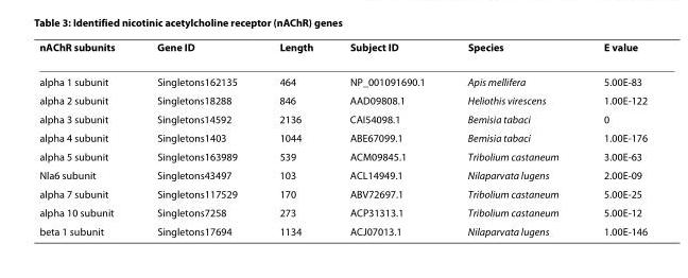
<table><thead><tr><td>nAChR subunits</td><td>Gene ID</td><td>Length</td><td>Subject ID</td><td>Species</td><td>E value</td></tr></thead><tbody><tr><td>alpha 1 subunit</td><td>Singletons162135</td><td>464</td><td>NP_001091690.1</td><td>Apis mellifera</td><td>5.00E-83</td></tr><tr><td>alpha 2 subunit</td><td>Singletons18288</td><td>846</td><td>AAD09808.1</td><td>Heliothis virescens</td><td>1.00E-122</td></tr><tr><td>alpha 3 subunit</td><td>Singletons14592</td><td>2136</td><td>CAI54098.1</td><td>Bemisia tabaci</td><td>0</td></tr><tr><td>alpha 4 subunit</td><td>Singletons1403</td><td>1044</td><td>ABE67099.1</td><td>Bemisia tabaci</td><td>1.00E-176</td></tr><tr><td>alpha 5 subunit</td><td>Singletons163989</td><td>539</td><td>ACM09845.1</td><td>Tribolium castaneum</td><td>3.00E-63</td></tr><tr><td>Nla6 subunit</td><td>Singletons43497</td><td>103</td><td>ACL14949.1</td><td>Nilaparvata lugens</td><td>2.00E-09</td></tr><tr><td>alpha 7 subunit</td><td>Singletons117529</td><td>170</td><td>ABV72697.1</td><td>Tribolium castaneum</td><td>5.00E-25</td></tr><tr><td>alpha 10 subunit</td><td>Singletons7258</td><td>273</td><td>ACP31313.1</td><td>Tribolium castaneum</td><td>5.00E-12</td></tr><tr><td>beta 1 subunit</td><td>Singletons17694</td><td>1134</td><td>ACJ07013.1</td><td>Nilaparvata lugens</td><td>1.00E-146</td></tr></tbody></table>